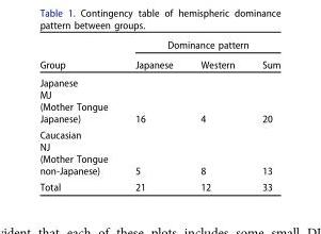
<table><thead><tr><td rowspan="2">Group</td><td colspan="3">Dominance pattern</td></tr><tr><td>Japanese</td><td>Western</td><td>Sum</td></tr></thead><tbody><tr><td>Japanese MJ (Mother Tongue Japanese)</td><td>16</td><td>4</td><td>20</td></tr><tr><td>Caucasian NJ (Mother Tongue non-Japanese)</td><td>5</td><td>8</td><td>13</td></tr><tr><td>Total</td><td>21</td><td>12</td><td>33</td></tr></tbody></table>